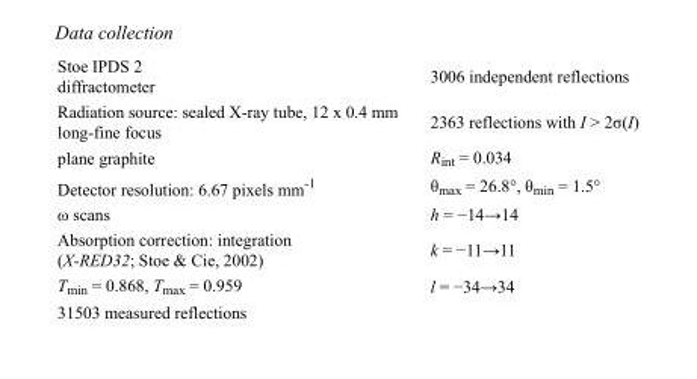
<table><tbody><tr><td>Stoe IPDS 2 diffractometer</td><td>3006 independent reflections</td></tr><tr><td>Radiation source: sealed X-ray tube, 12 x 0.4 mm long-fine focus</td><td>2363 reflections with I &gt; 2σ(I)</td></tr><tr><td>plane graphite</td><td>R<sub>int</sub> = 0.034</td></tr><tr><td>Detector resolution: 6.67 pixels mm<sup>-1</sup></td><td>θ<sub>max</sub> = 26.8°, θ<sub>min</sub> = 1.5°</td></tr><tr><td>ω scans</td><td>h = −14→14</td></tr><tr><td>Absorption correction: integration (X-RED32; Stoe &amp; Cie, 2002)</td><td>k = −11→11</td></tr><tr><td>T<sub>min</sub> = 0.868, T<sub>max</sub> = 0.959</td><td>l = −34→34</td></tr><tr><td>31503 measured reflections</td><td></td></tr></tbody></table>